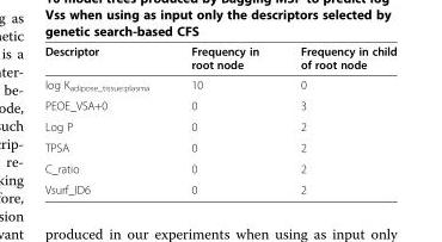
<table><thead><tr><td>Descriptor</td><td>Frequency in root node</td><td>Frequency in child of root node</td></tr></thead><tbody><tr><td>log K<sub>adipose_tissue:plasma</sub></td><td>10</td><td>0</td></tr><tr><td>PEOE_VSA+0</td><td>0</td><td>3</td></tr><tr><td>Log P</td><td>0</td><td>2</td></tr><tr><td>TPSA</td><td>0</td><td>2</td></tr><tr><td>C_ratio</td><td>0</td><td>2</td></tr><tr><td>Vsurf_ID6</td><td>0</td><td>2</td></tr></tbody></table>